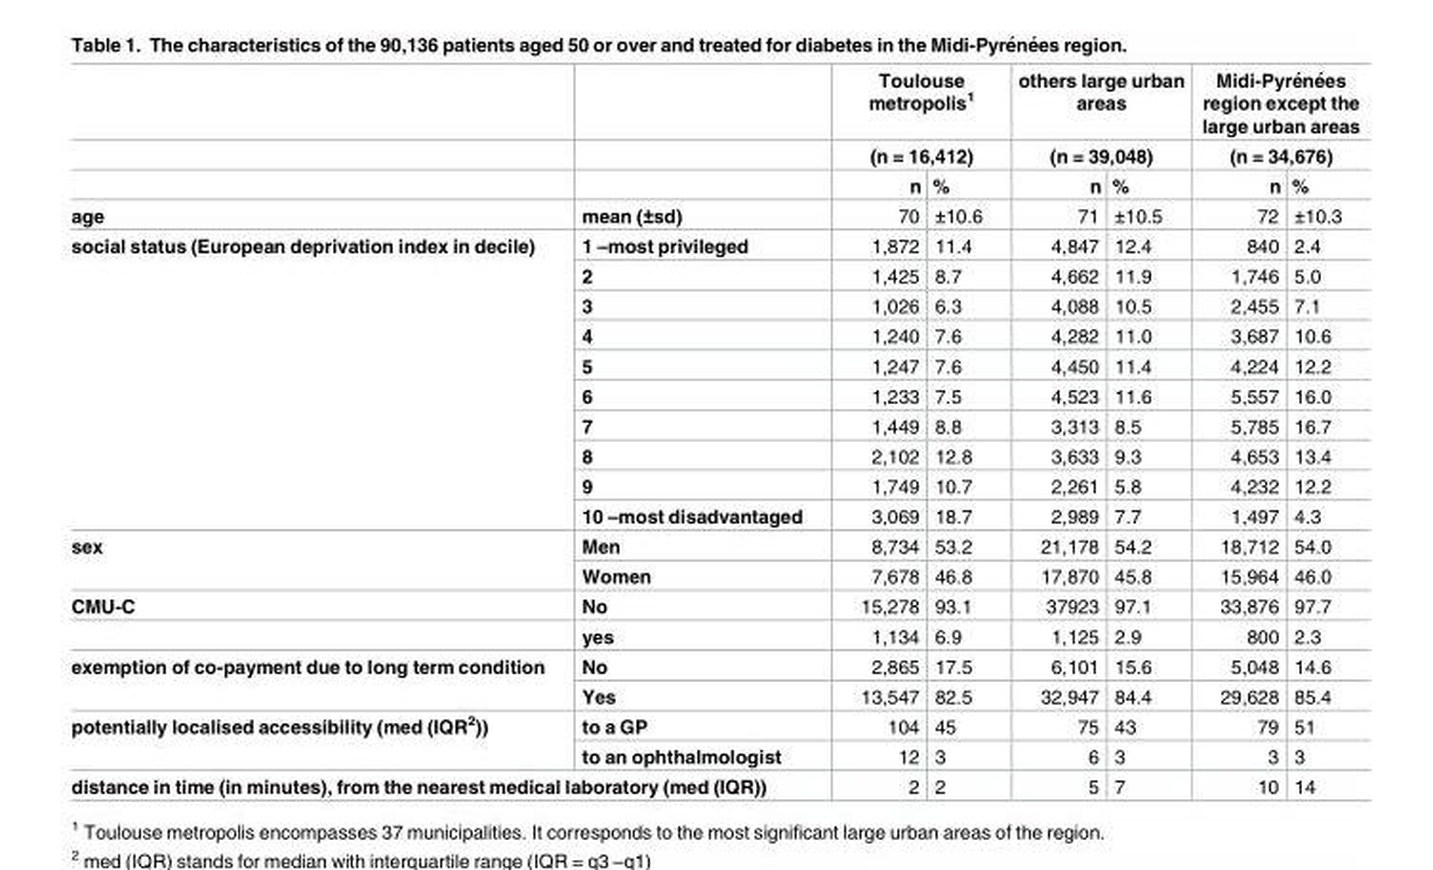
<table><thead><tr><td rowspan="3"></td><td rowspan="3"></td><td rowspan="2" colspan="2">Toulouse metropolis<sup>1</sup> (n = 16,412)</td><td rowspan="2" colspan="2">others large urban areas (n = 39,048)</td><td rowspan="2" colspan="2">Midi-Pyre´ne´es region except the large urban areas (n = 34,676)</td></tr><tr></tr><tr><td>n</td><td>%</td><td>n</td><td>%</td><td>n</td><td>%</td></tr></thead><tbody><tr><td>age</td><td>mean (±sd)</td><td>70</td><td>±10.6</td><td>71</td><td>±10.5</td><td>72</td><td>±10.3</td></tr><tr><td rowspan="10">social status (European deprivation index in decile)</td><td>1 –most privileged</td><td>1,872</td><td>11.4</td><td>4,847</td><td>12.4</td><td>840</td><td>2.4</td></tr><tr><td>2</td><td>1,425</td><td>8.7</td><td>4,662</td><td>11.9</td><td>1,746</td><td>5.0</td></tr><tr><td>3</td><td>1,026</td><td>6.3</td><td>4,088</td><td>10.5</td><td>2,455</td><td>7.1</td></tr><tr><td>4</td><td>1,240</td><td>7.6</td><td>4,282</td><td>11.0</td><td>3,687</td><td>10.6</td></tr><tr><td>5</td><td>1,247</td><td>7.6</td><td>4,450</td><td>11.4</td><td>4,224</td><td>12.2</td></tr><tr><td>6</td><td>1,233</td><td>7.5</td><td>4,523</td><td>11.6</td><td>5,557</td><td>16.0</td></tr><tr><td>7</td><td>1,449</td><td>8.8</td><td>3,313</td><td>8.5</td><td>5,785</td><td>16.7</td></tr><tr><td>8</td><td>2,102</td><td>12.8</td><td>3,633</td><td>9.3</td><td>4,653</td><td>13.4</td></tr><tr><td>9</td><td>1,749</td><td>10.7</td><td>2,261</td><td>5.8</td><td>4,232</td><td>12.2</td></tr><tr><td>10 –most disadvantaged</td><td>3,069</td><td>18.7</td><td>2,989</td><td>7.7</td><td>1,497</td><td>4.3</td></tr><tr><td rowspan="2">sex</td><td>Men</td><td>8,734</td><td>53.2</td><td>21,178</td><td>54.2</td><td>18,712</td><td>54.0</td></tr><tr><td>Women</td><td>7,678</td><td>46.8</td><td>17,870</td><td>45.8</td><td>15,964</td><td>46.0</td></tr><tr><td rowspan="2">CMU-C</td><td>No</td><td>15,278</td><td>93.1</td><td>37923</td><td>97.1</td><td>33,876</td><td>97.7</td></tr><tr><td>yes</td><td>1,134</td><td>6.9</td><td>1,125</td><td>2.9</td><td>800</td><td>2.3</td></tr><tr><td rowspan="2">exemption of co-payment due to long term condition</td><td>No</td><td>2,865</td><td>17.5</td><td>6,101</td><td>15.6</td><td>5,048</td><td>14.6</td></tr><tr><td>Yes</td><td>13,547</td><td>82.5</td><td>32,947</td><td>84.4</td><td>29,628</td><td>85.4</td></tr><tr><td rowspan="2">potentially localised accessibility (med (IQR<sup>2</sup>))</td><td>to a GP</td><td>104</td><td>45</td><td>75</td><td>43</td><td>79</td><td>51</td></tr><tr><td>to an ophthalmologist</td><td>12</td><td>3</td><td>6</td><td>3</td><td>3</td><td>3</td></tr><tr><td colspan="2">distance in time (in minutes), from the nearest medical laboratory (med (IQR))</td><td>2</td><td>2</td><td>5</td><td>7</td><td>10</td><td>14</td></tr></tbody></table>